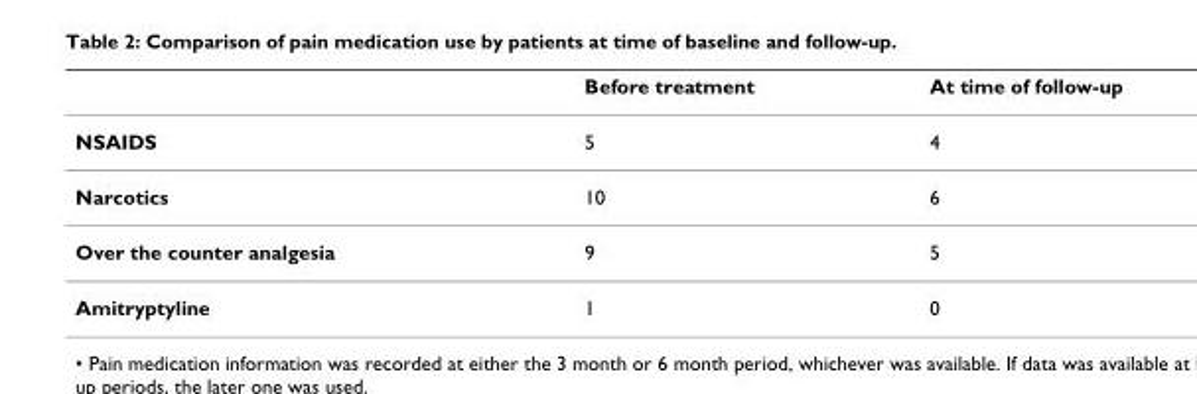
<table><thead><tr><td></td><td>Before treatment</td><td>At time of follow-up</td></tr></thead><tbody><tr><td>NSAIDS</td><td>5</td><td>4</td></tr><tr><td>Narcotics</td><td>10</td><td>6</td></tr><tr><td>Over the counter analgesia</td><td>9</td><td>5</td></tr><tr><td>Amitryptyline</td><td>1</td><td>0</td></tr></tbody></table>